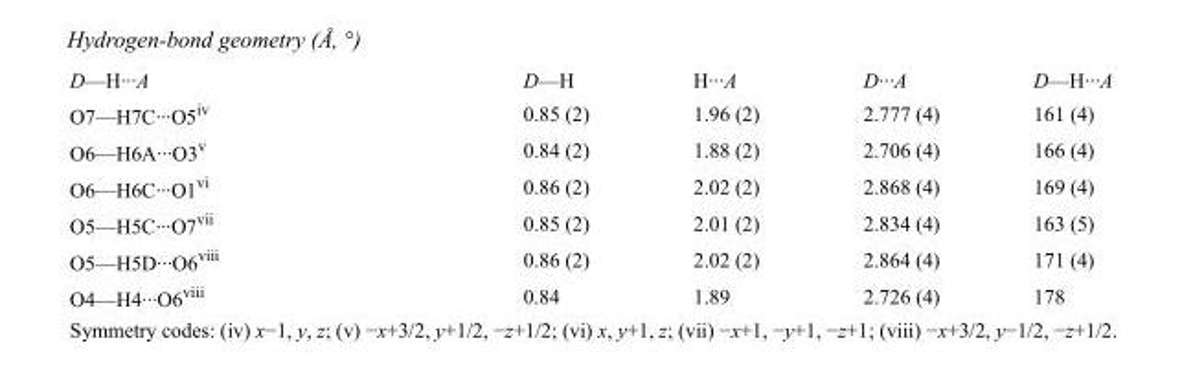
<table><tbody><tr><td>D—H···A</td><td>D—H</td><td>H···A</td><td>D···A</td><td>D—H···A</td></tr><tr><td>O7—H7C···O5<sup>iv</sup></td><td>0.85 (2)</td><td>1.96 (2)</td><td>2.777 (4)</td><td>161 (4)</td></tr><tr><td>O6—H6A···O3<sup>v</sup></td><td>0.84 (2)</td><td>1.88 (2)</td><td>2.706 (4)</td><td>166 (4)</td></tr><tr><td>O6—H6C···O1<sup>vi</sup></td><td>0.86 (2)</td><td>2.02 (2)</td><td>2.868 (4)</td><td>169 (4)</td></tr><tr><td>O5—H5C···O7<sup>vii</sup></td><td>0.85 (2)</td><td>2.01 (2)</td><td>2.834 (4)</td><td>163 (5)</td></tr><tr><td>O5—H5D···O6<sup>viii</sup></td><td>0.86 (2)</td><td>2.02 (2)</td><td>2.864 (4)</td><td>171 (4)</td></tr><tr><td>O4—H4···O6<sup>viii</sup></td><td>0.84</td><td>1.89</td><td>2.726 (4)</td><td>178</td></tr></tbody></table>